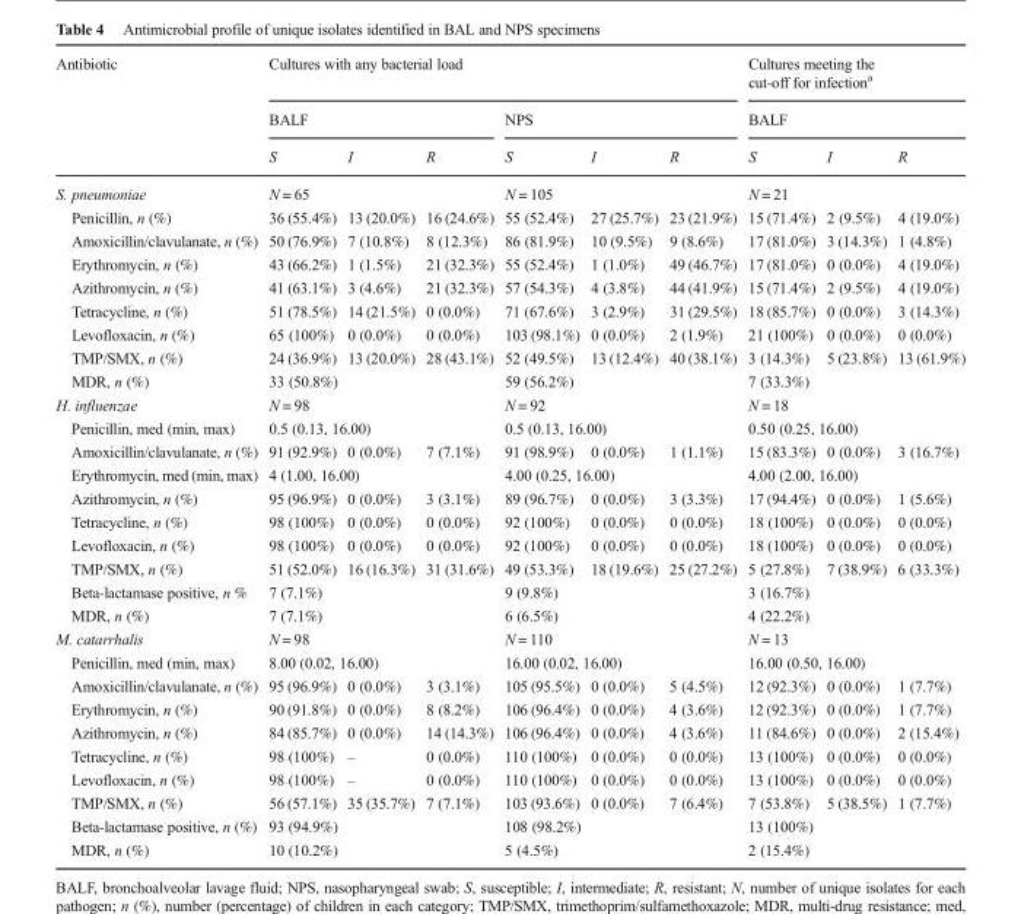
<table><thead><tr><td rowspan="3">Antibiotic</td><td colspan="6">Cultures with any bacterial load</td><td rowspan="2" colspan="3">Cultures meeting the cut-off for infection<sup>a</sup> BALF</td></tr><tr><td colspan="3">BALF</td><td colspan="3">NPS</td></tr><tr><td>S</td><td>I</td><td>R</td><td>S</td><td>I</td><td>R</td><td>S</td><td>I</td><td>R</td></tr></thead><tbody><tr><td>S. pneumoniae</td><td colspan="3">N = 65</td><td colspan="3">N = 105</td><td colspan="3">N = 21</td></tr><tr><td>Penicillin, n (%)</td><td>36 (55.4%)</td><td>13 (20.0%)</td><td>16 (24.6%)</td><td>55 (52.4%)</td><td>27 (25.7%)</td><td>23 (21.9%)</td><td>15 (71.4%)</td><td>2 (9.5%)</td><td>4 (19.0%)</td></tr><tr><td>Amoxicillin/clavulanate, n (%)</td><td>50 (76.9%)</td><td>7 (10.8%)</td><td>8 (12.3%)</td><td>86 (81.9%)</td><td>10 (9.5%)</td><td>9 (8.6%)</td><td>17 (81.0%)</td><td>3 (14.3%)</td><td>1 (4.8%)</td></tr><tr><td>Erythromycin, n (%)</td><td>43 (66.2%)</td><td>1 (1.5%)</td><td>21 (32.3%)</td><td>55 (52.4%)</td><td>1 (1.0%)</td><td>49 (46.7%)</td><td>17 (81.0%)</td><td>0 (0.0%)</td><td>4 (19.0%)</td></tr><tr><td>Azithromycin, n (%)</td><td>41 (63.1%)</td><td>3 (4.6%)</td><td>21 (32.3%)</td><td>57 (54.3%)</td><td>4 (3.8%)</td><td>44 (41.9%)</td><td>15 (71.4%)</td><td>2 (9.5%)</td><td>4 (19.0%)</td></tr><tr><td>Tetracycline, n (%)</td><td>51 (78.5%)</td><td>14 (21.5%)</td><td>0 (0.0%)</td><td>71 (67.6%)</td><td>3 (2.9%)</td><td>31 (29.5%)</td><td>18 (85.7%)</td><td>0 (0.0%)</td><td>3 (14.3%)</td></tr><tr><td>Levofloxacin, n (%)</td><td>65 (100%)</td><td>0 (0.0%)</td><td>0 (0.0%)</td><td>103 (98.1%)</td><td>0 (0.0%)</td><td>2 (1.9%)</td><td>21 (100%)</td><td>0 (0.0%)</td><td>0 (0.0%)</td></tr><tr><td>TMP/SMX, n (%)</td><td>24 (36.9%)</td><td>13 (20.0%)</td><td>28 (43.1%)</td><td>52 (49.5%)</td><td>13 (12.4%)</td><td>40 (38.1%)</td><td>3 (14.3%)</td><td>5 (23.8%)</td><td>13 (61.9%)</td></tr><tr><td>MDR, n (%)</td><td colspan="3">33 (50.8%)</td><td colspan="3">59 (56.2%)</td><td colspan="3">7 (33.3%)</td></tr><tr><td>H. influenzae</td><td colspan="3">N = 98</td><td colspan="3">N = 92</td><td colspan="3">N = 18</td></tr><tr><td>Penicillin, med (min, max)</td><td colspan="3">0.5 (0.13, 16.00)</td><td colspan="3">0.5 (0.13, 16.00)</td><td colspan="3">0.50 (0.25, 16.00)</td></tr><tr><td>Amoxicillin/clavulanate, n (%)</td><td>91 (92.9%)</td><td>0 (0.0%)</td><td>7 (7.1%)</td><td>91 (98.9%)</td><td>0 (0.0%)</td><td>1 (1.1%)</td><td>15 (83.3%)</td><td>0 (0.0%)</td><td>3 (16.7%)</td></tr><tr><td>Erythromycin, med (min, max)</td><td colspan="3">4 (1.00, 16.00)</td><td colspan="3">4.00 (0.25, 16.00)</td><td colspan="3">4.00 (2.00, 16.00)</td></tr><tr><td>Azithromycin, n (%)</td><td>95 (96.9%)</td><td>0 (0.0%)</td><td>3 (3.1%)</td><td>89 (96.7%)</td><td>0 (0.0%)</td><td>3 (3.3%)</td><td>17 (94.4%)</td><td>0 (0.0%)</td><td>1 (5.6%)</td></tr><tr><td>Tetracycline, n (%)</td><td>98 (100%)</td><td>0 (0.0%)</td><td>0 (0.0%)</td><td>92 (100%)</td><td>0 (0.0%)</td><td>0 (0.0%)</td><td>18 (100%)</td><td>0 (0.0%)</td><td>0 (0.0%)</td></tr><tr><td>Levofloxacin, n (%)</td><td>98 (100%)</td><td>0 (0.0%)</td><td>0 (0.0%)</td><td>92 (100%)</td><td>0 (0.0%)</td><td>0 (0.0%)</td><td>18 (100%)</td><td>0 (0.0%)</td><td>0 (0.0%)</td></tr><tr><td>TMP/SMX, n (%)</td><td>51 (52.0%)</td><td>16 (16.3%)</td><td>31 (31.6%)</td><td>49 (53.3%)</td><td>18 (19.6%)</td><td>25 (27.2%)</td><td>5 (27.8%)</td><td>7 (38.9%)</td><td>6 (33.3%)</td></tr><tr><td>Beta-lactamase positive, n %</td><td colspan="3">7 (7.1%)</td><td colspan="3">9 (9.8%)</td><td colspan="3">3 (16.7%)</td></tr><tr><td>MDR, n (%)</td><td colspan="3">7 (7.1%)</td><td colspan="3">6 (6.5%)</td><td colspan="3">4 (22.2%)</td></tr><tr><td>M. catarrhalis</td><td colspan="3">N = 98</td><td colspan="3">N = 110</td><td colspan="3">N = 13</td></tr><tr><td>Penicillin, med (min, max)</td><td colspan="3">8.00 (0.02, 16.00)</td><td colspan="3">16.00 (0.02, 16.00)</td><td colspan="3">16.00 (0.50, 16.00)</td></tr><tr><td>Amoxicillin/clavulanate, n (%)</td><td>95 (96.9%)</td><td>0 (0.0%)</td><td>3 (3.1%)</td><td>105 (95.5%)</td><td>0 (0.0%)</td><td>5 (4.5%)</td><td>12 (92.3%)</td><td>0 (0.0%)</td><td>1 (7.7%)</td></tr><tr><td>Erythromycin, n (%)</td><td>90 (91.8%)</td><td>0 (0.0%)</td><td>8 (8.2%)</td><td>106 (96.4%)</td><td>0 (0.0%)</td><td>4 (3.6%)</td><td>12 (92.3%)</td><td>0 (0.0%)</td><td>1 (7.7%)</td></tr><tr><td>Azithromycin, n (%)</td><td>84 (85.7%)</td><td>0 (0.0%)</td><td>14 (14.3%)</td><td>106 (96.4%)</td><td>0 (0.0%)</td><td>4 (3.6%)</td><td>11 (84.6%)</td><td>0 (0.0%)</td><td>2 (15.4%)</td></tr><tr><td>Tetracycline, n (%)</td><td>98 (100%)</td><td>–</td><td>0 (0.0%)</td><td>110 (100%)</td><td>0 (0.0%)</td><td>0 (0.0%)</td><td>13 (100%)</td><td>0 (0.0%)</td><td>0 (0.0%)</td></tr><tr><td>Levofloxacin, n (%)</td><td>98 (100%)</td><td>–</td><td>0 (0.0%)</td><td>110 (100%)</td><td>0 (0.0%)</td><td>0 (0.0%)</td><td>13 (100%)</td><td>0 (0.0%)</td><td>0 (0.0%)</td></tr><tr><td>TMP/SMX, n (%)</td><td>56 (57.1%)</td><td>35 (35.7%)</td><td>7 (7.1%)</td><td>103 (93.6%)</td><td>0 (0.0%)</td><td>7 (6.4%)</td><td>7 (53.8%)</td><td>5 (38.5%)</td><td>1 (7.7%)</td></tr><tr><td>Beta-lactamase positive, n (%)</td><td colspan="3">93 (94.9%)</td><td colspan="3">108 (98.2%)</td><td colspan="3">13 (100%)</td></tr><tr><td>MDR, n (%)</td><td colspan="3">10 (10.2%)</td><td colspan="3">5 (4.5%)</td><td colspan="3">2 (15.4%)</td></tr></tbody></table>